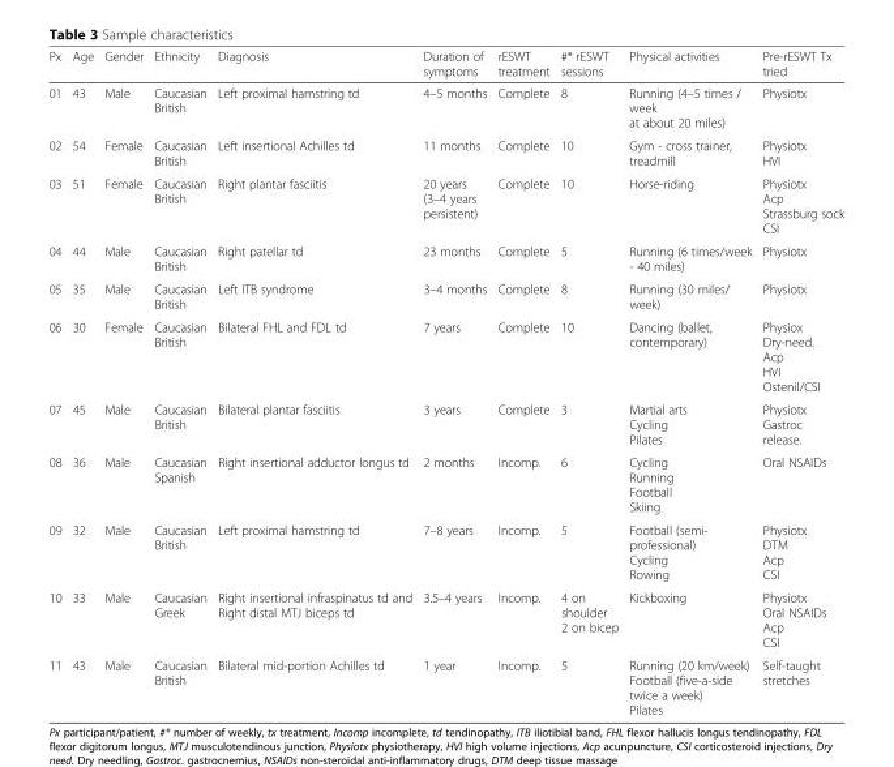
<table><thead><tr><td>Px</td><td>Age</td><td>Gender</td><td>Ethnicity</td><td>Diagnosis</td><td>Duration of symptoms</td><td>rESWT treatment</td><td>#* rESWT sessions</td><td>Physical activities</td><td>Pre-rESWT Tx tried</td></tr></thead><tbody><tr><td>01</td><td>43</td><td>Male</td><td>Caucasian British</td><td>Left proximal hamstring td</td><td>4–5 months</td><td>Complete</td><td>8</td><td>Running (4–5 times / week at about 20 miles)</td><td>Physiotx</td></tr><tr><td>02</td><td>54</td><td>Female</td><td>Caucasian British</td><td>Left insertional Achilles td</td><td>11 months</td><td>Complete</td><td>10</td><td>Gym - cross trainer, treadmill</td><td>Physiotx HVI</td></tr><tr><td>03</td><td>51</td><td>Female</td><td>Caucasian British</td><td>Right plantar fasciitis</td><td>20 years (3–4 years persistent)</td><td>Complete</td><td>10</td><td>Horse-riding</td><td>Physiotx Acp Strassburg sock CSI</td></tr><tr><td>04</td><td>44</td><td>Male</td><td>Caucasian British</td><td>Right patellar td</td><td>23 months</td><td>Complete</td><td>5</td><td>Running (6 times/week - 40 miles)</td><td>Physiotx</td></tr><tr><td>05</td><td>35</td><td>Male</td><td>Caucasian British</td><td>Left ITB syndrome</td><td>3–4 months</td><td>Complete</td><td>8</td><td>Running (30 miles/ week)</td><td>Physiotx</td></tr><tr><td>06</td><td>30</td><td>Female</td><td>Caucasian British</td><td>Bilateral FHL and FDL td</td><td>7 years</td><td>Complete</td><td>10</td><td>Dancing (ballet, contemporary)</td><td>Physiox Dry-need. Acp HVI Ostenil/CSI</td></tr><tr><td>07</td><td>45</td><td>Male</td><td>Caucasian British</td><td>Bilateral plantar fasciitis</td><td>3 years</td><td>Complete</td><td>3</td><td>Martial arts Cycling Pilates</td><td>Physiotx Gastroc release.</td></tr><tr><td>08</td><td>36</td><td>Male</td><td>Caucasian Spanish</td><td>Right insertional adductor longus td</td><td>2 months</td><td>Incomp.</td><td>6</td><td>Cycling Running Football Skiing</td><td>Oral NSAIDs</td></tr><tr><td>09</td><td>32</td><td>Male</td><td>Caucasian British</td><td>Left proximal hamstring td</td><td>7–8 years</td><td>Incomp.</td><td>5</td><td>Football (semi- professional) Cycling Rowing</td><td>Physiotx DTM Acp CSI</td></tr><tr><td>10</td><td>33</td><td>Male</td><td>Caucasian Greek</td><td>Right insertional infraspinatus td and Right distal MTJ biceps td</td><td>3.5–4 years</td><td>Incomp.</td><td>4 on shoulder 2 on bicep</td><td>Kickboxing</td><td>Physiotx Oral NSAIDs Acp CSI</td></tr><tr><td>11</td><td>43</td><td>Male</td><td>Caucasian British</td><td>Bilateral mid-portion Achilles td</td><td>1 year</td><td>Incomp.</td><td>5</td><td>Running (20 km/week) Football (five-a-side twice a week) Pilates</td><td>Self-taught stretches</td></tr></tbody></table>